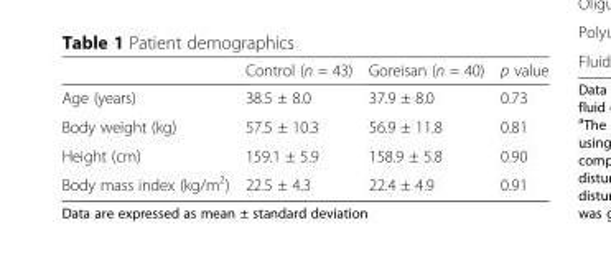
<table><thead><tr><td></td><td>Control (n = 43)</td><td>Goreisan (n = 40)</td><td>p value</td></tr></thead><tbody><tr><td>Age (years)</td><td>38.5 ± 8.0</td><td>37.9 ± 8.0</td><td>0.73</td></tr><tr><td>Body weight (kg)</td><td>57.5 ± 10.3</td><td>56.9 ± 11.8</td><td>0.81</td></tr><tr><td>Height (cm)</td><td>159.1 ± 5.9</td><td>158.9 ± 5.8</td><td>0.90</td></tr><tr><td>Body mass index (kg/m<sup>2</sup>)</td><td>22.5 ± 4.3</td><td>22.4 ± 4.9</td><td>0.91</td></tr></tbody></table>